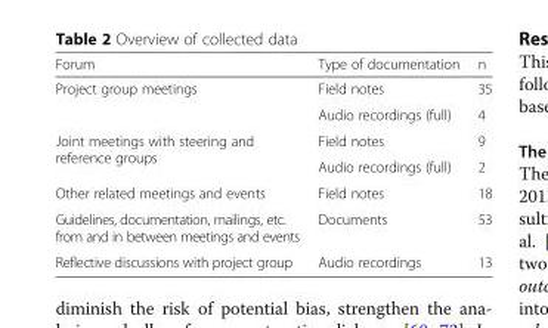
<table><thead><tr><td>Forum</td><td>Type of documentation</td><td>n</td></tr></thead><tbody><tr><td rowspan="2">Project group meetings</td><td>Field notes</td><td>35</td></tr><tr><td>Audio recordings (full)</td><td>4</td></tr><tr><td rowspan="2">Joint meetings with steering and reference groups</td><td>Field notes</td><td>9</td></tr><tr><td>Audio recordings (full)</td><td>2</td></tr><tr><td>Other related meetings and events</td><td>Field notes</td><td>18</td></tr><tr><td>Guidelines, documentation, mailings, etc. from and in between meetings and events</td><td>Documents</td><td>53</td></tr><tr><td>Reflective discussions with project group</td><td>Audio recordings</td><td>13</td></tr></tbody></table>